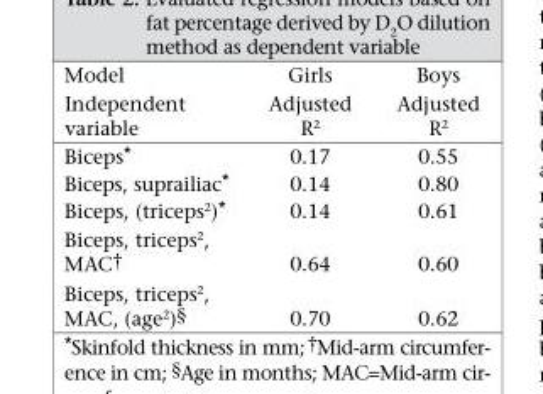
<table><thead><tr><td rowspan="2">Model Independent variable</td><td rowspan="2">Girls Adjusted R<sup>2</sup></td><td rowspan="2">Boys Adjusted R<sup>2</sup></td></tr><tr></tr></thead><tbody><tr><td>Biceps*</td><td>0.17</td><td>0.55</td></tr><tr><td>Biceps, suprailiac*</td><td>0.14</td><td>0.80</td></tr><tr><td>Biceps, (triceps<sup>2</sup>)*</td><td>0.14</td><td>0.61</td></tr><tr><td>Biceps, triceps<sup>2</sup>, MAC†</td><td>0.64</td><td>0.60</td></tr><tr><td>Biceps, triceps<sup>2</sup>, MAC, (age<sup>2</sup>)§</td><td>0.70</td><td>0.62</td></tr></tbody></table>